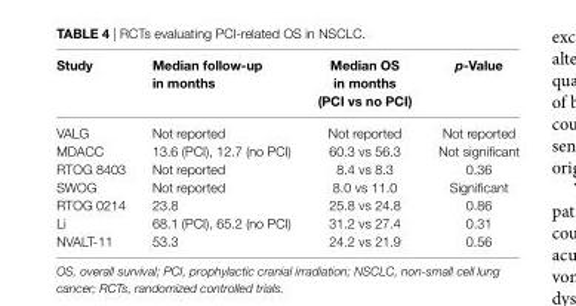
<table><thead><tr><td>Study</td><td>Median follow-up in months</td><td>Median OS in months (PCi vs no PCi)</td><td>p-value</td></tr></thead><tbody><tr><td>VALG</td><td>Not reported</td><td>Not reported</td><td>Not reported</td></tr><tr><td>MDACC</td><td>13.6 (PCI), 12.7 (no PCI)</td><td>60.3 vs 56.3</td><td>Not significant</td></tr><tr><td>RTOG 8403</td><td>Not reported</td><td>8.4 vs 8.3</td><td>0.36</td></tr><tr><td>SWOG</td><td>Not reported</td><td>8.0 vs 11.0</td><td>Significant</td></tr><tr><td>RTOG 0214</td><td>23.8</td><td>25.8 vs 24.8</td><td>0.86</td></tr><tr><td>Li</td><td>68.1 (PCI), 65.2 (no PCI)</td><td>31.2 vs 27.4</td><td>0.31</td></tr><tr><td>NVALT-11</td><td>53.3</td><td>24.2 vs 21.9</td><td>0.56</td></tr></tbody></table>